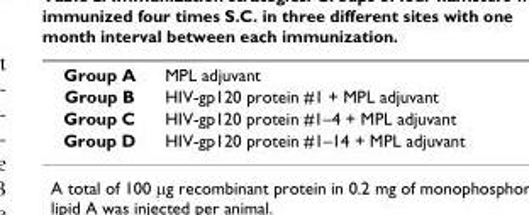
<table><tbody><tr><td>Group A</td><td>MPL adjuvant</td></tr><tr><td>Group B</td><td>HIV-gp120 protein #1 + MPL adjuvant</td></tr><tr><td>Group C</td><td>HIV-gp120 protein #1–4 + MPL adjuvant</td></tr><tr><td>Group D</td><td>HIV-gp120 protein #1–14 + MPL adjuvant</td></tr></tbody></table>